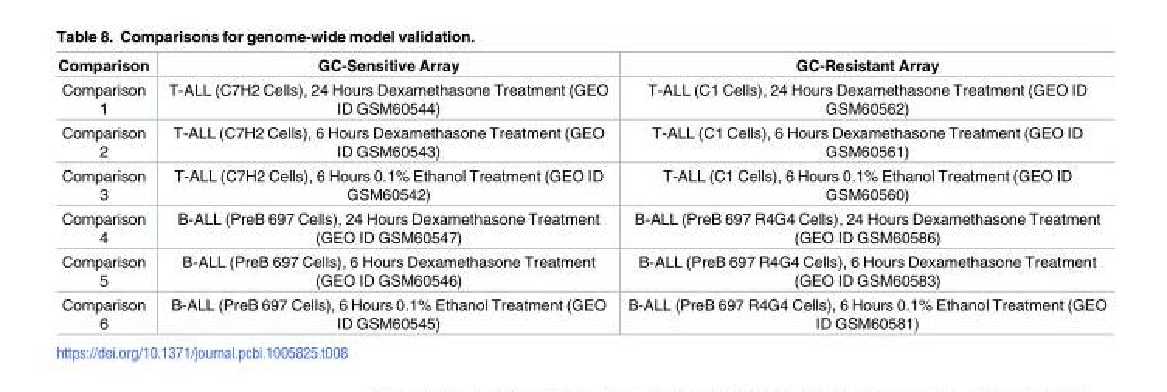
<table><thead><tr><td>Comparison</td><td>GC-Sensitive Array</td><td>GC-Resistant Array</td></tr></thead><tbody><tr><td>Comparison 1</td><td>T-ALL (C7H2 Cells), 24 Hours Dexamethasone Treatment (GEO ID GSM60544)</td><td>T-ALL (C1 Cells), 24 Hours Dexamethasone Treatment (GEO ID GSM60562)</td></tr><tr><td>Comparison 2</td><td>T-ALL (C7H2 Cells), 6 Hours Dexamethasone Treatment (GEO ID GSM60543)</td><td>T-ALL (C1 Cells), 6 Hours Dexamethasone Treatment (GEO ID GSM60561)</td></tr><tr><td>Comparison 3</td><td>T-ALL (C7H2 Cells), 6 Hours 0.1% Ethanol Treatment (GEO ID GSM60542)</td><td>T-ALL (C1 Cells), 6 Hours 0.1% Ethanol Treatment (GEO ID GSM60560)</td></tr><tr><td>Comparison 4</td><td>B-ALL (PreB 697 Cells), 24 Hours Dexamethasone Treatment (GEO ID GSM60547)</td><td>B-ALL (PreB 697 R4G4 Cells), 24 Hours Dexamethasone Treatment (GEO ID GSM60586)</td></tr><tr><td>Comparison 5</td><td>B-ALL (PreB 697 Cells), 6 Hours Dexamethasone Treatment (GEO ID GSM60546)</td><td>B-ALL (PreB 697 R4G4 Cells), 6 Hours Dexamethasone Treatment (GEO ID GSM60583)</td></tr><tr><td>Comparison 6</td><td>B-ALL (PreB 697 Cells), 6 Hours 0.1% Ethanol Treatment (GEO ID GSM60545)</td><td>B-ALL (PreB 697 R4G4 Cells), 6 Hours 0.1% Ethanol Treatment (GEO ID GSM60581)</td></tr></tbody></table>